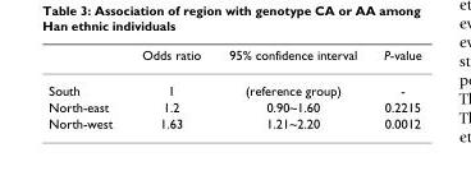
<table><thead><tr><td></td><td>Odds ratio</td><td>95% confidence interval</td><td>P-value</td></tr></thead><tbody><tr><td>South</td><td>1</td><td>(reference group)</td><td>-</td></tr><tr><td>North-east</td><td>1.2</td><td>0.90~1.60</td><td>0.2215</td></tr><tr><td>North-west</td><td>1.63</td><td>1.21~2.20</td><td>0.0012</td></tr></tbody></table>